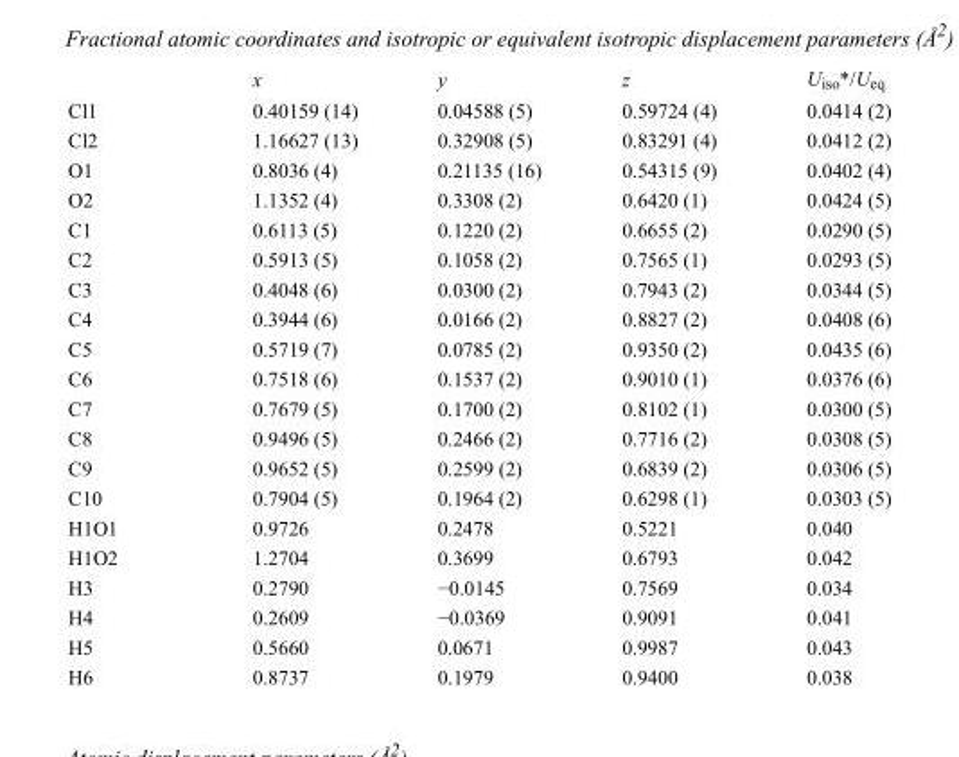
<table><thead><tr><td></td><td>x</td><td>y</td><td>z</td><td>U<sub>iso</sub>*/U<sub>eq</sub></td></tr></thead><tbody><tr><td>Cl1</td><td>0.40159 (14)</td><td>0.04588 (5)</td><td>0.59724 (4)</td><td>0.0414 (2)</td></tr><tr><td>Cl2</td><td>1.16627 (13)</td><td>0.32908 (5)</td><td>0.83291 (4)</td><td>0.0412 (2)</td></tr><tr><td>O1</td><td>0.8036 (4)</td><td>0.21135 (16)</td><td>0.54315 (9)</td><td>0.0402 (4)</td></tr><tr><td>O2</td><td>1.1352 (4)</td><td>0.3308 (2)</td><td>0.6420 (1)</td><td>0.0424 (5)</td></tr><tr><td>C1</td><td>0.6113 (5)</td><td>0.1220 (2)</td><td>0.6655 (2)</td><td>0.0290 (5)</td></tr><tr><td>C2</td><td>0.5913 (5)</td><td>0.1058 (2)</td><td>0.7565 (1)</td><td>0.0293 (5)</td></tr><tr><td>C3</td><td>0.4048 (6)</td><td>0.0300 (2)</td><td>0.7943 (2)</td><td>0.0344 (5)</td></tr><tr><td>C4</td><td>0.3944 (6)</td><td>0.0166 (2)</td><td>0.8827 (2)</td><td>0.0408 (6)</td></tr><tr><td>C5</td><td>0.5719 (7)</td><td>0.0785 (2)</td><td>0.9350 (2)</td><td>0.0435 (6)</td></tr><tr><td>C6</td><td>0.7518 (6)</td><td>0.1537 (2)</td><td>0.9010 (1)</td><td>0.0376 (6)</td></tr><tr><td>C7</td><td>0.7679 (5)</td><td>0.1700 (2)</td><td>0.8102 (1)</td><td>0.0300 (5)</td></tr><tr><td>C8</td><td>0.9496 (5)</td><td>0.2466 (2)</td><td>0.7716 (2)</td><td>0.0308 (5)</td></tr><tr><td>C9</td><td>0.9652 (5)</td><td>0.2599 (2)</td><td>0.6839 (2)</td><td>0.0306 (5)</td></tr><tr><td>C10</td><td>0.7904 (5)</td><td>0.1964 (2)</td><td>0.6298 (1)</td><td>0.0303 (5)</td></tr><tr><td>H1O1</td><td>0.9726</td><td>0.2478</td><td>0.5221</td><td>0.040</td></tr><tr><td>H1O2</td><td>1.2704</td><td>0.3699</td><td>0.6793</td><td>0.042</td></tr><tr><td>H3</td><td>0.2790</td><td>−0.0145</td><td>0.7569</td><td>0.034</td></tr><tr><td>H4</td><td>0.2609</td><td>−0.0369</td><td>0.9091</td><td>0.041</td></tr><tr><td>H5</td><td>0.5660</td><td>0.0671</td><td>0.9987</td><td>0.043</td></tr><tr><td>H6</td><td>0.8737</td><td>0.1979</td><td>0.9400</td><td>0.038</td></tr></tbody></table>